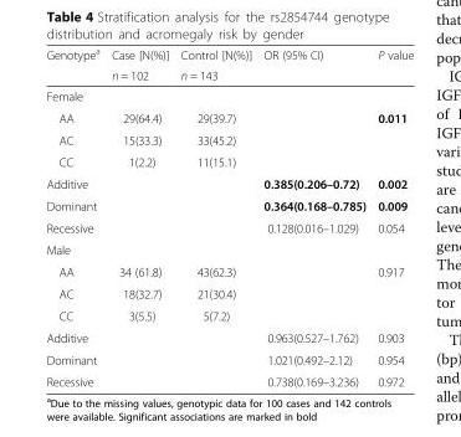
<table><thead><tr><td rowspan="2">Genotype<sup>a</sup></td><td rowspan="2">Case [N(%)] n = 102</td><td rowspan="2">Control [N(%)] n = 143</td><td rowspan="2">OR (95% CI)</td><td rowspan="2">P value</td></tr><tr></tr></thead><tbody><tr><td colspan="5">Female</td></tr><tr><td>AA</td><td>29(64.4)</td><td>29(39.7)</td><td></td><td>0.011</td></tr><tr><td>AC</td><td>15(33.3)</td><td>33(45.2)</td><td></td><td></td></tr><tr><td>CC</td><td>1(2.2)</td><td>11(15.1)</td><td></td><td></td></tr><tr><td>Additive</td><td></td><td></td><td>0.385(0.206–0.72)</td><td>0.002</td></tr><tr><td>Dominant</td><td></td><td></td><td>0.364(0.168–0.785)</td><td>0.009</td></tr><tr><td>Recessive</td><td></td><td></td><td>0.128(0.016–1.029)</td><td>0.054</td></tr><tr><td colspan="5">Male</td></tr><tr><td>AA</td><td>34 (61.8)</td><td>43(62.3)</td><td></td><td>0.917</td></tr><tr><td>AC</td><td>18(32.7)</td><td>21(30.4)</td><td></td><td></td></tr><tr><td>CC</td><td>3(5.5)</td><td>5(7.2)</td><td></td><td></td></tr><tr><td>Additive</td><td></td><td></td><td>0.963(0.527–1.762)</td><td>0.903</td></tr><tr><td>Dominant</td><td></td><td></td><td>1.021(0.492–2.12)</td><td>0.954</td></tr><tr><td>Recessive</td><td></td><td></td><td>0.738(0.169–3.236)</td><td>0.972</td></tr></tbody></table>